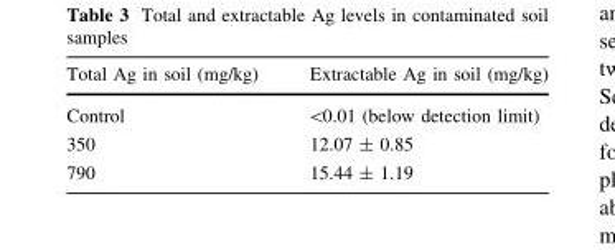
<table><thead><tr><td>Total Ag in soil (mg/kg)</td><td>Extractable Ag in soil (mg/kg)</td></tr></thead><tbody><tr><td>Control</td><td>&lt;0.01 (below detection limit)</td></tr><tr><td>350</td><td>12.07 ± 0.85</td></tr><tr><td>790</td><td>15.44 ± 1.19</td></tr></tbody></table>